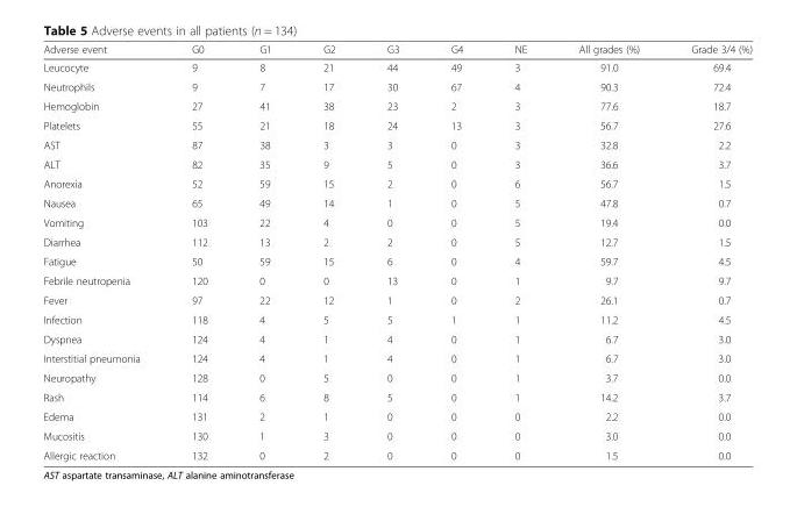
<table><thead><tr><td>Adverse event</td><td>G0</td><td>G1</td><td>G2</td><td>G3</td><td>G4</td><td>NE</td><td>All grades (%)</td><td>Grade 3/4 (%)</td></tr></thead><tbody><tr><td>Leucocyte</td><td>9</td><td>8</td><td>21</td><td>44</td><td>49</td><td>3</td><td>91.0</td><td>69.4</td></tr><tr><td>Neutrophils</td><td>9</td><td>7</td><td>17</td><td>30</td><td>67</td><td>4</td><td>90.3</td><td>72.4</td></tr><tr><td>Hemoglobin</td><td>27</td><td>41</td><td>38</td><td>23</td><td>2</td><td>3</td><td>77.6</td><td>18.7</td></tr><tr><td>Platelets</td><td>55</td><td>21</td><td>18</td><td>24</td><td>13</td><td>3</td><td>56.7</td><td>27.6</td></tr><tr><td>AST</td><td>87</td><td>38</td><td>3</td><td>3</td><td>0</td><td>3</td><td>32.8</td><td>2.2</td></tr><tr><td>ALT</td><td>82</td><td>35</td><td>9</td><td>5</td><td>0</td><td>3</td><td>36.6</td><td>3.7</td></tr><tr><td>Anorexia</td><td>52</td><td>59</td><td>15</td><td>2</td><td>0</td><td>6</td><td>56.7</td><td>1.5</td></tr><tr><td>Nausea</td><td>65</td><td>49</td><td>14</td><td>1</td><td>0</td><td>5</td><td>47.8</td><td>0.7</td></tr><tr><td>Vomiting</td><td>103</td><td>22</td><td>4</td><td>0</td><td>0</td><td>5</td><td>19.4</td><td>0.0</td></tr><tr><td>Diarrhea</td><td>112</td><td>13</td><td>2</td><td>2</td><td>0</td><td>5</td><td>12.7</td><td>1.5</td></tr><tr><td>Fatigue</td><td>50</td><td>59</td><td>15</td><td>6</td><td>0</td><td>4</td><td>59.7</td><td>4.5</td></tr><tr><td>Febrile neutropenia</td><td>120</td><td>0</td><td>0</td><td>13</td><td>0</td><td>1</td><td>9.7</td><td>9.7</td></tr><tr><td>Fever</td><td>97</td><td>22</td><td>12</td><td>1</td><td>0</td><td>2</td><td>26.1</td><td>0.7</td></tr><tr><td>Infection</td><td>118</td><td>4</td><td>5</td><td>5</td><td>1</td><td>1</td><td>11.2</td><td>4.5</td></tr><tr><td>Dyspnea</td><td>124</td><td>4</td><td>1</td><td>4</td><td>0</td><td>1</td><td>6.7</td><td>3.0</td></tr><tr><td>Interstitial pneumonia</td><td>124</td><td>4</td><td>1</td><td>4</td><td>0</td><td>1</td><td>6.7</td><td>3.0</td></tr><tr><td>Neuropathy</td><td>128</td><td>0</td><td>5</td><td>0</td><td>0</td><td>1</td><td>3.7</td><td>0.0</td></tr><tr><td>Rash</td><td>114</td><td>6</td><td>8</td><td>5</td><td>0</td><td>1</td><td>14.2</td><td>3.7</td></tr><tr><td>Edema</td><td>131</td><td>2</td><td>1</td><td>0</td><td>0</td><td>0</td><td>2.2</td><td>0.0</td></tr><tr><td>Mucositis</td><td>130</td><td>1</td><td>3</td><td>0</td><td>0</td><td>0</td><td>3.0</td><td>0.0</td></tr><tr><td>Allergic reaction</td><td>132</td><td>0</td><td>2</td><td>0</td><td>0</td><td>0</td><td>1.5</td><td>0.0</td></tr></tbody></table>